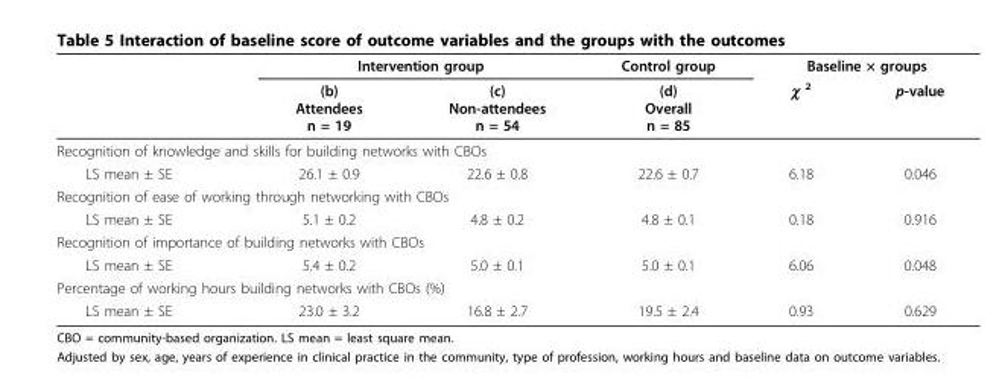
<table><thead><tr><td rowspan="2"></td><td colspan="2">Intervention group</td><td rowspan="2">Control group (d) Overall n = 85</td><td colspan="2">Baseline × groups</td></tr><tr><td>(b) Attendees n = 19</td><td>(c) Non-attendees n = 54</td><td>χ <sup>2</sup></td><td>p-value</td></tr></thead><tbody><tr><td colspan="6">Recognition of knowledge and skills for building networks with CBOs</td></tr><tr><td>LS mean ± SE</td><td>26.1 ± 0.9</td><td>22.6 ± 0.8</td><td>22.6 ± 0.7</td><td>6.18</td><td>0.046</td></tr><tr><td colspan="6">Recognition of ease of working through networking with CBOs</td></tr><tr><td>LS mean ± SE</td><td>5.1 ± 0.2</td><td>4.8 ± 0.2</td><td>4.8 ± 0.1</td><td>0.18</td><td>0.916</td></tr><tr><td colspan="6">Recognition of importance of building networks with CBOs</td></tr><tr><td>LS mean ± SE</td><td>5.4 ± 0.2</td><td>5.0 ± 0.1</td><td>5.0 ± 0.1</td><td>6.06</td><td>0.048</td></tr><tr><td colspan="6">Percentage of working hours building networks with CBOs (%)</td></tr><tr><td>LS mean ± SE</td><td>23.0 ± 3.2</td><td>16.8 ± 2.7</td><td>19.5 ± 2.4</td><td>0.93</td><td>0.629</td></tr></tbody></table>